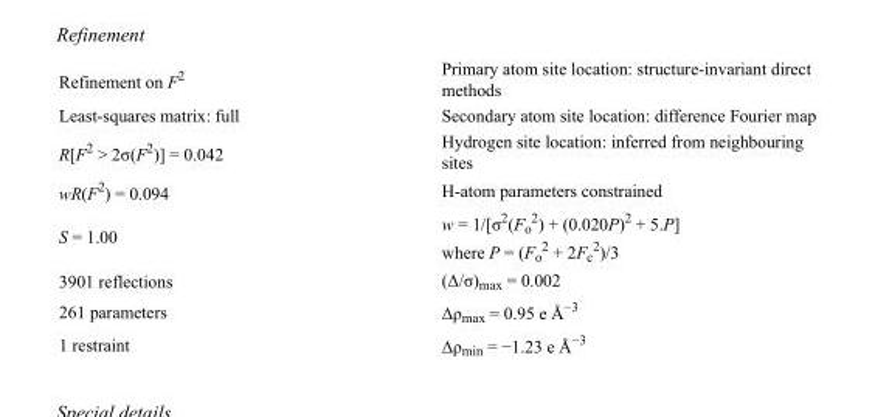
<table><tbody><tr><td>Refinement on F<sup>2</sup></td><td>Primary atom site location: structure-invariant direct methods</td></tr><tr><td>Least-squares matrix: full</td><td>Secondary atom site location: difference Fourier map</td></tr><tr><td>R[F<sup>2</sup> &gt; 2σ(F<sup>2</sup>)] = 0.042</td><td>Hydrogen site location: inferred from neighbouring sites</td></tr><tr><td>wR(F<sup>2</sup>) = 0.094</td><td>H-atom parameters constrained</td></tr><tr><td>S = 1.00</td><td>w = 1/[σ<sup>2</sup>(F<sub>o</sub> <sup>2</sup>) + (0.020P)<sup>2</sup> + 5.P] where P = (F<sub>o</sub> <sup>2</sup> + 2F<sub>c</sub> <sup>2</sup>)/3</td></tr><tr><td>3901 reflections</td><td>(Δ/σ)<sub>max</sub> = 0.002</td></tr><tr><td>261 parameters</td><td>Δρ<sub>max</sub> = 0.95 e Å<sup>−3</sup></td></tr><tr><td>1 restraint</td><td>Δρ<sub>min</sub> = −1.23 e Å<sup>−3</sup></td></tr></tbody></table>